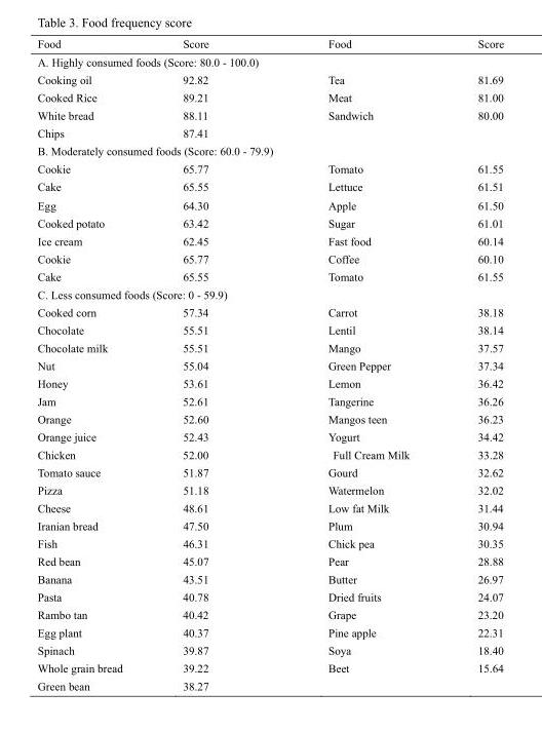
<table><thead><tr><td>Food</td><td>Score</td><td>Food</td><td>Score</td></tr></thead><tbody><tr><td colspan="4">A. Highly consumed foods (Score: 80.0 - 100.0)</td></tr><tr><td>Cooking oil</td><td>92.82</td><td>Tea</td><td>81.69</td></tr><tr><td>Cooked Rice</td><td>89.21</td><td>Meat</td><td>81.00</td></tr><tr><td>White bread</td><td>88.11</td><td>Sandwich</td><td>80.00</td></tr><tr><td>Chips</td><td>87.41</td><td></td><td></td></tr><tr><td colspan="4">B. Moderately consumed foods (Score: 60.0 - 79.9)</td></tr><tr><td>Cookie</td><td>65.77</td><td>Tomato</td><td>61.55</td></tr><tr><td>Cake</td><td>65.55</td><td>Lettuce</td><td>61.51</td></tr><tr><td>Egg</td><td>64.30</td><td>Apple</td><td>61.50</td></tr><tr><td>Cooked potato</td><td>63.42</td><td>Sugar</td><td>61.01</td></tr><tr><td>Ice cream</td><td>62.45</td><td>Fast food</td><td>60.14</td></tr><tr><td>Cookie</td><td>65.77</td><td>Coffee</td><td>60.10</td></tr><tr><td>Cake</td><td>65.55</td><td>Tomato</td><td>61.55</td></tr><tr><td colspan="4">C. Less consumed foods (Score: 0 - 59.9)</td></tr><tr><td>Cooked corn</td><td>57.34</td><td>Carrot</td><td>38.18</td></tr><tr><td>Chocolate</td><td>55.51</td><td>Lentil</td><td>38.14</td></tr><tr><td>Chocolate milk</td><td>55.51</td><td>Mango</td><td>37.57</td></tr><tr><td>Nut</td><td>55.04</td><td>Green Pepper</td><td>37.34</td></tr><tr><td>Honey</td><td>53.61</td><td>Lemon</td><td>36.42</td></tr><tr><td>Jam</td><td>52.61</td><td>Tangerine</td><td>36.26</td></tr><tr><td>Orange</td><td>52.60</td><td>Mangos teen</td><td>36.23</td></tr><tr><td>Orange juice</td><td>52.43</td><td>Yogurt</td><td>34.42</td></tr><tr><td>Chicken</td><td>52.00</td><td>Full Cream Milk</td><td>33.28</td></tr><tr><td>Tomato sauce</td><td>51.87</td><td>Gourd</td><td>32.62</td></tr><tr><td>Pizza</td><td>51.18</td><td>Watermelon</td><td>32.02</td></tr><tr><td>Cheese</td><td>48.61</td><td>Low fat Milk</td><td>31.44</td></tr><tr><td>Iranian bread</td><td>47.50</td><td>Plum</td><td>30.94</td></tr><tr><td>Fish</td><td>46.31</td><td>Chick pea</td><td>30.35</td></tr><tr><td>Red bean</td><td>45.07</td><td>Pear</td><td>28.88</td></tr><tr><td>Banana</td><td>43.51</td><td>Butter</td><td>26.97</td></tr><tr><td>Pasta</td><td>40.78</td><td>Dried fruits</td><td>24.07</td></tr><tr><td>Rambo tan</td><td>40.42</td><td>Grape</td><td>23.20</td></tr><tr><td>Egg plant</td><td>40.37</td><td>Pine apple</td><td>22.31</td></tr><tr><td>Spinach</td><td>39.87</td><td>Soya</td><td>18.40</td></tr><tr><td>Whole grain bread</td><td>39.22</td><td>Beet</td><td>15.64</td></tr><tr><td>Green bean</td><td>38.27</td><td></td><td></td></tr></tbody></table>